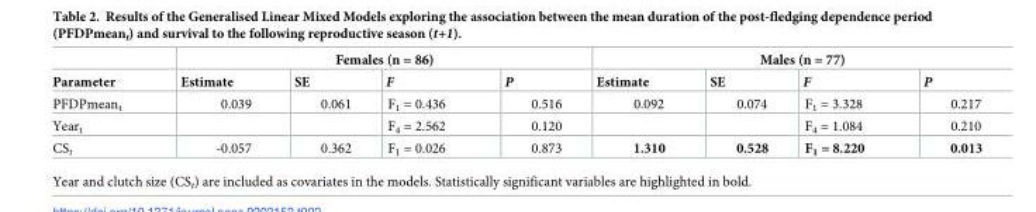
<table><thead><tr><td rowspan="2">Parameter</td><td colspan="4">Females (n = 86)</td><td colspan="4">Males (n = 77)</td></tr><tr><td>Estimate</td><td>SE</td><td>F</td><td>P</td><td>Estimate</td><td>SE</td><td>F</td><td>P</td></tr></thead><tbody><tr><td>PFDPmean<sub>t</sub></td><td>0.039</td><td>0.061</td><td>F<sub>1</sub> = 0.436</td><td>0.516</td><td>0.092</td><td>0.074</td><td>F<sub>1</sub> = 3.328</td><td>0.217</td></tr><tr><td>Year<sub>t</sub></td><td></td><td></td><td>F<sub>4</sub> = 2.562</td><td>0.120</td><td></td><td></td><td>F<sub>4</sub> = 1.084</td><td>0.210</td></tr><tr><td>CS<sub>t</sub></td><td>-0.057</td><td>0.362</td><td>F<sub>1</sub> = 0.026</td><td>0.873</td><td>1.310</td><td>0.528</td><td>F<sub>1</sub> = 8.220</td><td>0.013</td></tr></tbody></table>